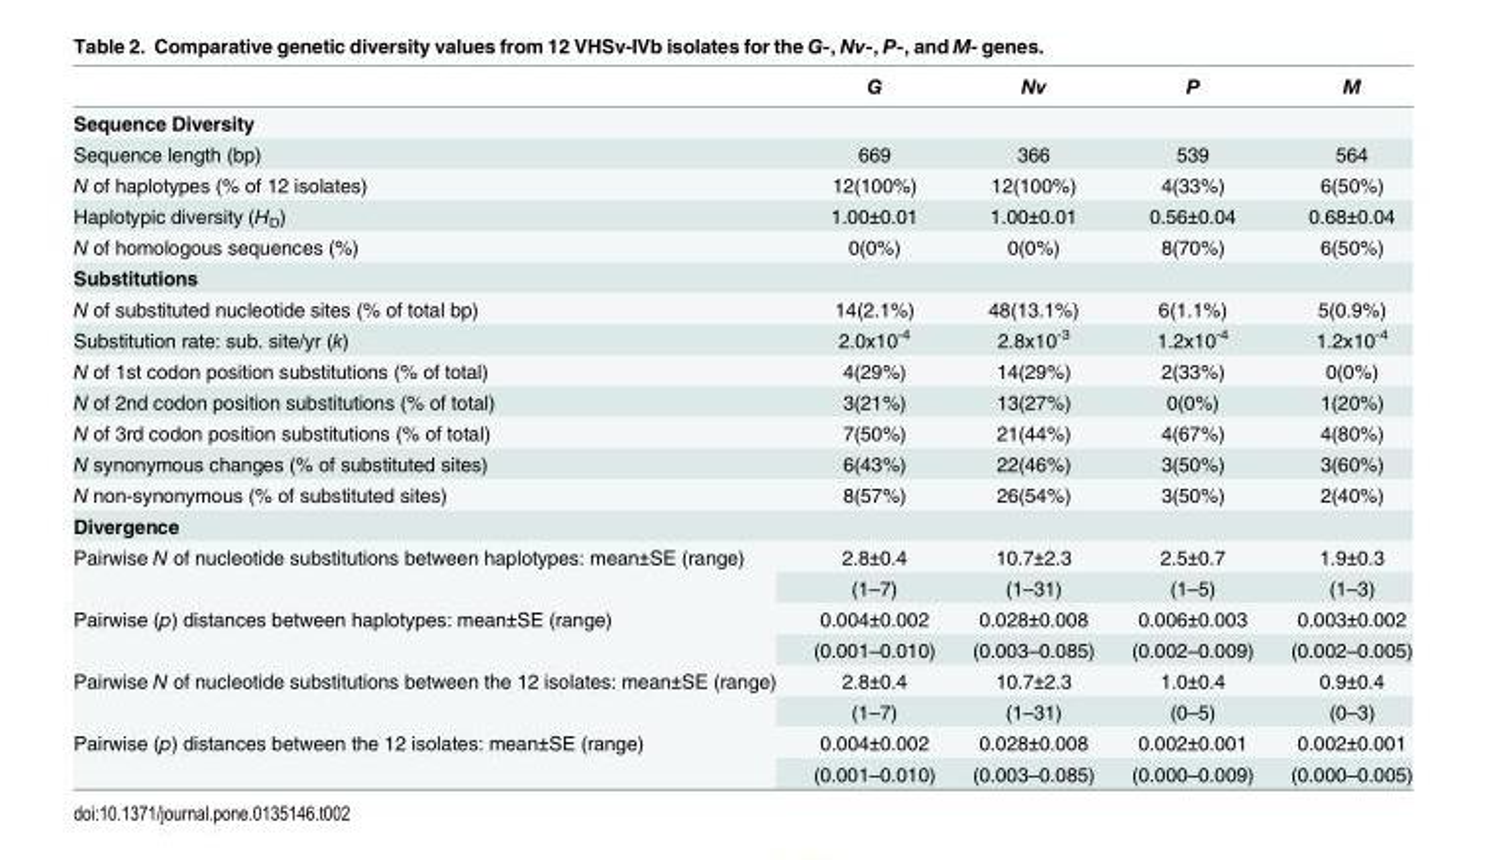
<table><thead><tr><td></td><td>G</td><td>Nv</td><td>P</td><td>M</td></tr></thead><tbody><tr><td colspan="5">Sequence Diversity</td></tr><tr><td>Sequence length (bp)</td><td>669</td><td>366</td><td>539</td><td>564</td></tr><tr><td>N of haplotypes (% of 12 isolates)</td><td>12(100%)</td><td>12(100%)</td><td>4(33%)</td><td>6(50%)</td></tr><tr><td>Haplotypic diversity (H<sub>D</sub>)</td><td>1.00±0.01</td><td>1.00±0.01</td><td>0.56±0.04</td><td>0.68±0.04</td></tr><tr><td>N of homologous sequences (%)</td><td>0(0%)</td><td>0(0%)</td><td>8(70%)</td><td>6(50%)</td></tr><tr><td colspan="5">Substitutions</td></tr><tr><td>N of substituted nucleotide sites (% of total bp)</td><td>14(2.1%)</td><td>48(13.1%)</td><td>6(1.1%)</td><td>5(0.9%)</td></tr><tr><td>Substitution rate: sub. site/yr (k)</td><td>2.0x10<sup>-4</sup></td><td>2.8x10<sup>-3</sup></td><td>1.2x10<sup>-4</sup></td><td>1.2x10<sup>-4</sup></td></tr><tr><td>N of 1st codon position substitutions (% of total)</td><td>4(29%)</td><td>14(29%)</td><td>2(33%)</td><td>0(0%)</td></tr><tr><td>N of 2nd codon position substitutions (% of total)</td><td>3(21%)</td><td>13(27%)</td><td>0(0%)</td><td>1(20%)</td></tr><tr><td>N of 3rd codon position substitutions (% of total)</td><td>7(50%)</td><td>21(44%)</td><td>4(67%)</td><td>4(80%)</td></tr><tr><td>N synonymous changes (% of substituted sites)</td><td>6(43%)</td><td>22(46%)</td><td>3(50%)</td><td>3(60%)</td></tr><tr><td>N non-synonymous (% of substituted sites)</td><td>8(57%)</td><td>26(54%)</td><td>3(50%)</td><td>2(40%)</td></tr><tr><td colspan="5">Divergence</td></tr><tr><td rowspan="2">Pairwise N of nucleotide substitutions between haplotypes: mean±SE (range)</td><td>2.8±0.4</td><td>10.7±2.3</td><td>2.5±0.7</td><td>1.9±0.3</td></tr><tr><td>(1–7)</td><td>(1–31)</td><td>(1–5)</td><td>(1–3)</td></tr><tr><td rowspan="2">Pairwise (p) distances between haplotypes: mean±SE (range)</td><td>0.004±0.002</td><td>0.028±0.008</td><td>0.006±0.003</td><td>0.003±0.002</td></tr><tr><td>(0.001–0.010)</td><td>(0.003–0.085)</td><td>(0.002–0.009)</td><td>(0.002–0.005)</td></tr><tr><td rowspan="2">Pairwise N of nucleotide substitutions between the 12 isolates: mean±SE (range)</td><td>2.8±0.4</td><td>10.7±2.3</td><td>1.0±0.4</td><td>0.9±0.4</td></tr><tr><td>(1–7)</td><td>(1–31)</td><td>(0–5)</td><td>(0–3)</td></tr><tr><td rowspan="2">Pairwise (p) distances between the 12 isolates: mean±SE (range)</td><td>0.004±0.002</td><td>0.028±0.008</td><td>0.002±0.001</td><td>0.002±0.001</td></tr><tr><td>(0.001–0.010)</td><td>(0.003–0.085)</td><td>(0.000–0.009)</td><td>(0.000–0.005)</td></tr></tbody></table>